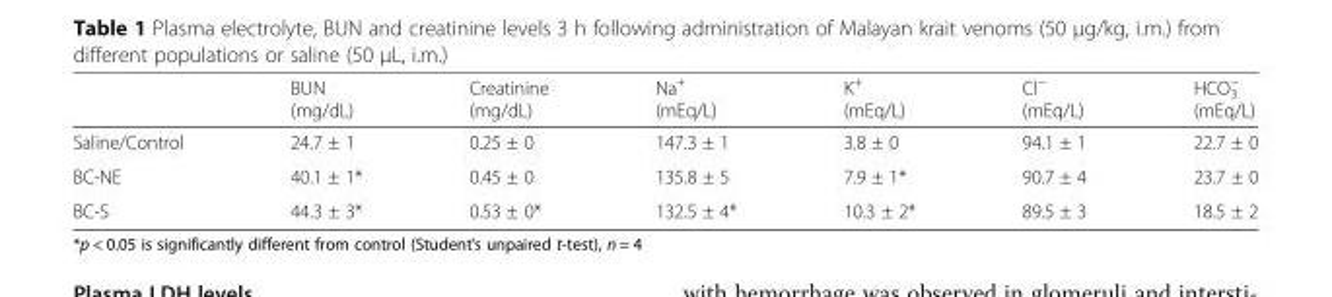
<table><thead><tr><td></td><td>BUN (mg/dL)</td><td>Creatinine (mg/dL)</td><td>Na<sup>+</sup> (mEq/L)</td><td>K<sup>+</sup> (mEq/L)</td><td>Cl<sup>−</sup> (mEq/L)</td><td>HCO<sub>3</sub> <sup>−</sup> (mEq/L)</td></tr></thead><tbody><tr><td>Saline/Control</td><td>24.7 ± 1</td><td>0.25 ± 0</td><td>147.3 ± 1</td><td>3.8 ± 0</td><td>94.1 ± 1</td><td>22.7 ± 0</td></tr><tr><td>BC-NE</td><td>40.1 ± 1*</td><td>0.45 ± 0</td><td>135.8 ± 5</td><td>7.9 ± 1*</td><td>90.7 ± 4</td><td>23.7 ± 0</td></tr><tr><td>BC-S</td><td>44.3 ± 3*</td><td>0.53 ± 0*</td><td>132.5 ± 4*</td><td>10.3 ± 2*</td><td>89.5 ± 3</td><td>18.5 ± 2</td></tr></tbody></table>